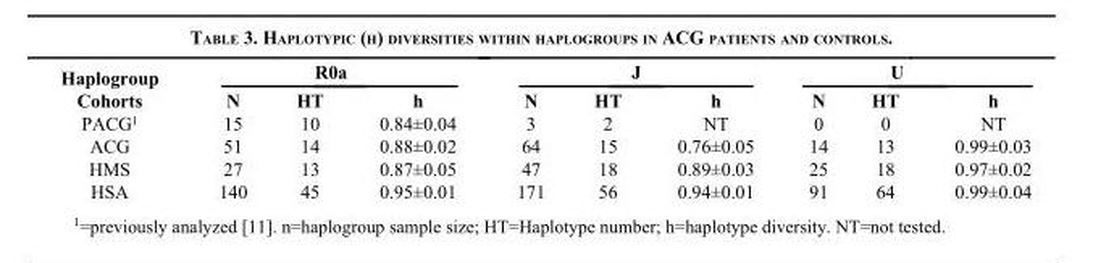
<table><thead><tr><td rowspan="2">Haplogroup Cohorts</td><td colspan="3">R0a</td><td colspan="3">J</td><td colspan="3">U</td></tr><tr><td>N</td><td>HT</td><td>h</td><td>N</td><td>HT</td><td>h</td><td>N</td><td>HT</td><td>h</td></tr></thead><tbody><tr><td>PACG<sup>1</sup></td><td>15</td><td>10</td><td>0.84±0.04</td><td>3</td><td>2</td><td>NT</td><td>0</td><td>0</td><td>NT</td></tr><tr><td>ACG</td><td>51</td><td>14</td><td>0.88±0.02</td><td>64</td><td>15</td><td>0.76±0.05</td><td>14</td><td>13</td><td>0.99±0.03</td></tr><tr><td>HMS</td><td>27</td><td>13</td><td>0.87±0.05</td><td>47</td><td>18</td><td>0.89±0.03</td><td>25</td><td>18</td><td>0.97±0.02</td></tr><tr><td>HSA</td><td>140</td><td>45</td><td>0.95±0.01</td><td>171</td><td>56</td><td>0.94±0.01</td><td>91</td><td>64</td><td>0.99±0.04</td></tr></tbody></table>